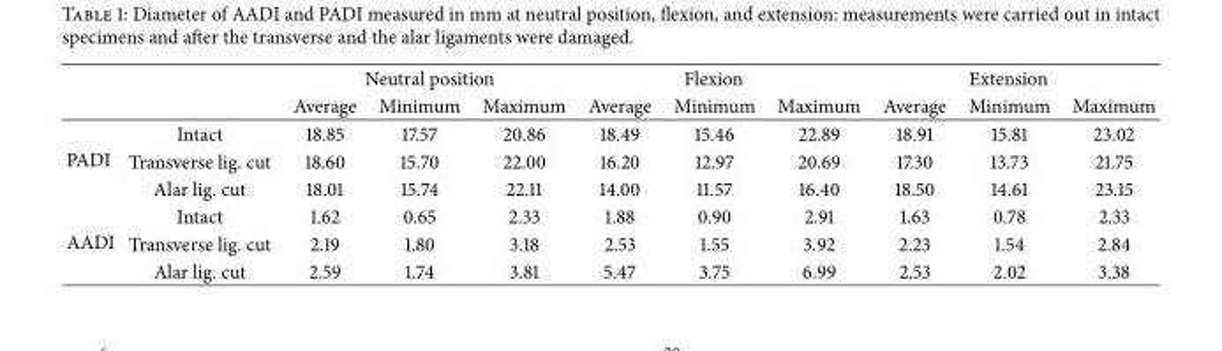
<table><thead><tr><td rowspan="2"></td><td rowspan="2"></td><td colspan="3">Neutral position</td><td colspan="3">Flexion</td><td colspan="3">Extension</td></tr><tr><td>Average</td><td>Minimum</td><td>Maximum</td><td>Average</td><td>Minimum</td><td>Maximum</td><td>Average</td><td>Minimum</td><td>Maximum</td></tr></thead><tbody><tr><td rowspan="3">PADI</td><td>Intact</td><td>18.85</td><td>17.57</td><td>20.86</td><td>18.49</td><td>15.46</td><td>22.89</td><td>18.91</td><td>15.81</td><td>23.02</td></tr><tr><td>Transverse lig. cut</td><td>18.60</td><td>15.70</td><td>22.00</td><td>16.20</td><td>12.97</td><td>20.69</td><td>17.30</td><td>13.73</td><td>21.75</td></tr><tr><td>Alar lig. cut</td><td>18.01</td><td>15.74</td><td>22.11</td><td>14.00</td><td>11.57</td><td>16.40</td><td>18.50</td><td>14.61</td><td>23.15</td></tr><tr><td rowspan="3">AADI</td><td>Intact</td><td>1.62</td><td>0.65</td><td>2.33</td><td>1.88</td><td>0.90</td><td>2.91</td><td>1.63</td><td>0.78</td><td>2.33</td></tr><tr><td>Transverse lig. cut</td><td>2.19</td><td>1.80</td><td>3.18</td><td>2.53</td><td>1.55</td><td>3.92</td><td>2.23</td><td>1.54</td><td>2.84</td></tr><tr><td>Alar lig. cut</td><td>2.59</td><td>1.74</td><td>3.81</td><td>5.47</td><td>3.75</td><td>6.99</td><td>2.53</td><td>2.02</td><td>3.38</td></tr></tbody></table>